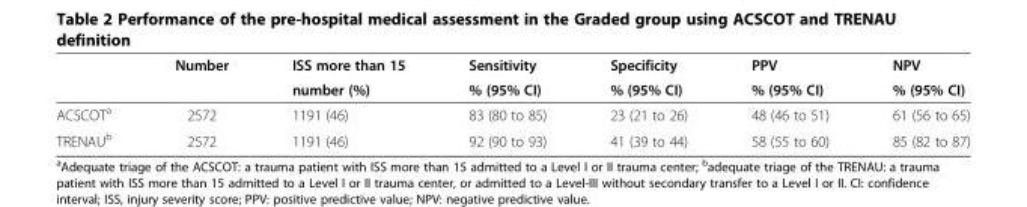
<table><thead><tr><td rowspan="2"></td><td rowspan="2">Number</td><td rowspan="2">ISS more than 15 number (%)</td><td rowspan="2">Sensitivity % (95% CI)</td><td rowspan="2">Specificity % (95% CI)</td><td rowspan="2">PPV % (95% CI)</td><td rowspan="2">NPV % (95% CI)</td></tr><tr></tr></thead><tbody><tr><td>ACSCOT<sup>a</sup></td><td>2572</td><td>1191 (46)</td><td>83 (80 to 85)</td><td>23 (21 to 26)</td><td>48 (46 to 51)</td><td>61 (56 to 65)</td></tr><tr><td>TRENAU<sup>b</sup></td><td>2572</td><td>1191 (46)</td><td>92 (90 to 93)</td><td>41 (39 to 44)</td><td>58 (55 to 60)</td><td>85 (82 to 87)</td></tr></tbody></table>